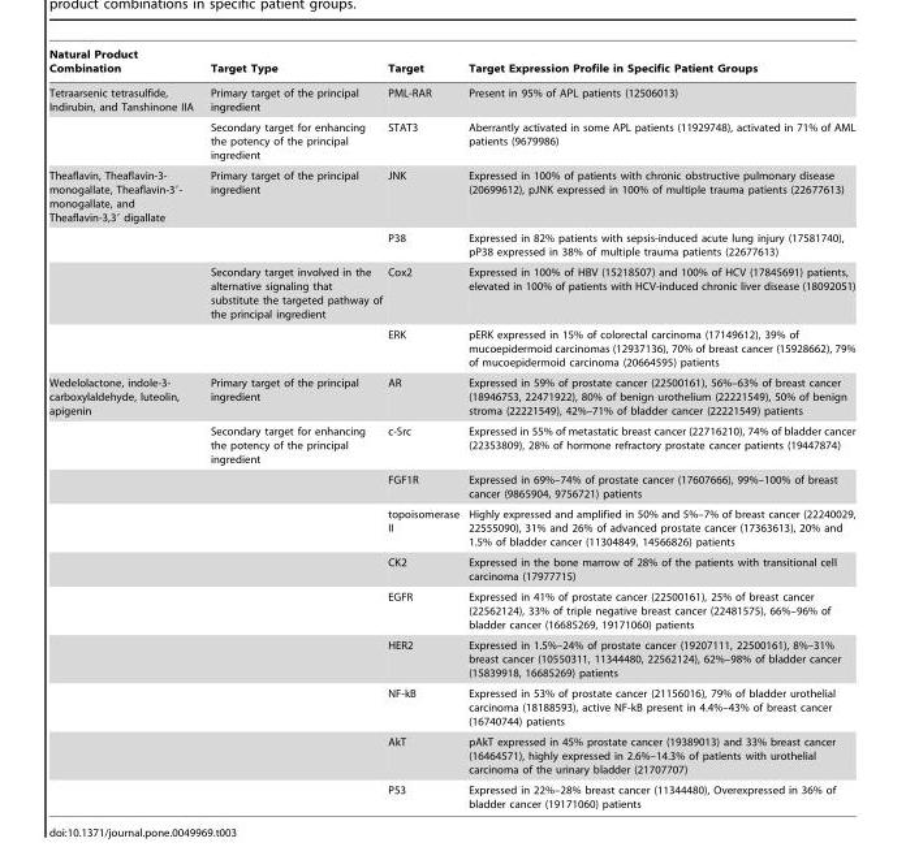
<table><thead><tr><td>Natural Product Combination</td><td>Target Type</td><td>Target</td><td>Target Expression Profile in Specific Patient Groups</td></tr></thead><tbody><tr><td rowspan="2">Tetraarsenic tetrasulfide, Indirubin, and Tanshinone IIA</td><td>Primary target of the principal ingredient</td><td>PML-RAR</td><td>Present in 95% of APL patients (12506013)</td></tr><tr><td>Secondary target for enhancing the potency of the principal ingredient</td><td>STAT3</td><td>Aberrantly activated in some APL patients (11929748), activated in 71% of AML patients (9679986)</td></tr><tr><td rowspan="4">Theaflavin, Theaflavin-3- monogallate, Theaflavin-3′- monogallate, and Theaflavin-3,3′ digallate</td><td>Primary target of the principal ingredient</td><td>JNK</td><td>Expressed in 100% of patients with chronic obstructive pulmonary disease (20699612), pJNK expressed in 100% of multiple trauma patients (22677613)</td></tr><tr><td></td><td>P38</td><td>Expressed in 82% patients with sepsis-induced acute lung injury (17581740), pP38 expressed in 38% of multiple trauma patients (22677613)</td></tr><tr><td>Secondary target involved in the alternative signaling that substitute the targeted pathway of the principal ingredient</td><td>Cox2</td><td>Expressed in 100% of HBV (15218507) and 100% of HCV (17845691) patients, elevated in 100% of patients with HCV-induced chronic liver disease (18092051)</td></tr><tr><td></td><td>ERK</td><td>pERK expressed in 15% of colorectal carcinoma (17149612), 39% of mucoepidermoid carcinomas (12937136), 70% of breast cancer (15928662), 79% of mucoepidermoid carcinoma (20664595) patients</td></tr><tr><td rowspan="10">Wedelolactone, indole-3- carboxylaldehyde, luteolin, apigenin</td><td>Primary target of the principal ingredient</td><td>AR</td><td>Expressed in 59% of prostate cancer (22500161), 56%–63% of breast cancer (18946753, 22471922), 80% of benign urothelium (22221549), 50% of benign stroma (22221549), 42%–71% of bladder cancer (22221549) patients</td></tr><tr><td>Secondary target for enhancing the potency of the principal ingredient</td><td>c-Src</td><td>Expressed in 55% of metastatic breast cancer (22716210), 74% of bladder cancer (22353809), 28% of hormone refractory prostate cancer patients (19447874)</td></tr><tr><td></td><td>FGF1R</td><td>Expressed in 69%–74% of prostate cancer (17607666), 99%–100% of breast cancer (9865904, 9756721) patients</td></tr><tr><td></td><td>topoisomerase II</td><td>Highly expressed and amplified in 50% and 5%–7% of breast cancer (22240029, 22555090), 31% and 26% of advanced prostate cancer (17363613), 20% and 1.5% of bladder cancer (11304849, 14566826) patients</td></tr><tr><td></td><td>CK2</td><td>Expressed in the bone marrow of 28% of the patients with transitional cell carcinoma (17977715)</td></tr><tr><td></td><td>EGFR</td><td>Expressed in 41% of prostate cancer (22500161), 25% of breast cancer (22562124), 33% of triple negative breast cancer (22481575), 66%–96% of bladder cancer (16685269, 19171060) patients</td></tr><tr><td></td><td>HER2</td><td>Expressed in 1.5%–24% of prostate cancer (19207111, 22500161), 8%–31% breast cancer (10550311, 11344480, 22562124), 62%–98% of bladder cancer (15839918, 16685269) patients</td></tr><tr><td></td><td>NF-kB</td><td>Expressed in 53% of prostate cancer (21156016), 79% of bladder urothelial carcinoma (18188593), active NF-kB present in 4.4%–43% of breast cancer (16740744) patients</td></tr><tr><td></td><td>AkT</td><td>pAkT expressed in 45% prostate cancer (19389013) and 33% breast cancer (16464571), highly expressed in 2.6%–14.3% of patients with urothelial carcinoma of the urinary bladder (21707707)</td></tr><tr><td></td><td>P53</td><td>Expressed in 22%–28% breast cancer (11344480), Overexpressed in 36% of bladder cancer (19171060) patients</td></tr></tbody></table>